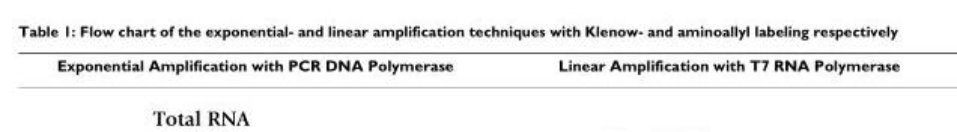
<table><thead><tr><td>Exponential Amplification with PCR DNA Polymerase</td><td>Linear Amplification with T7 RNA Polymerase</td></tr></thead><tbody></tbody></table>